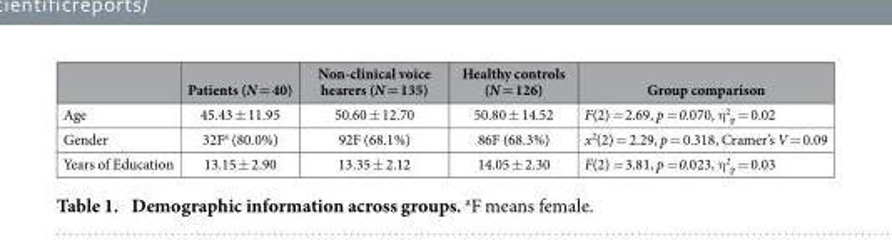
<table><thead><tr><td></td><td>Patients (N = 40)</td><td>Non-clinical voice hearers (N = 135)</td><td>Healthy controls (N = 126)</td><td>Group comparison</td></tr></thead><tbody><tr><td>Age</td><td>45.43 ± 11.95</td><td>50.60 ± 12.70</td><td>50.80 ± 14.52</td><td>F(2) = 2.69, p = 0.070, η <sup>2</sup> <sub>p</sub> = 0.02</td></tr><tr><td>Gender</td><td>32F<sup>a</sup> (80.0%)</td><td>92F (68.1%)</td><td>86F (68.3%)</td><td>x<sup>2</sup>(2) = 2.29, p = 0.318, Cramer’s V = 0.09</td></tr><tr><td>Years of Education</td><td>13.15 ± 2.90</td><td>13.35 ± 2.12</td><td>14.05 ± 2.30</td><td>F(2) = 3.81, p = 0.023, η <sup>2</sup> <sub>p</sub> = 0.03</td></tr></tbody></table>